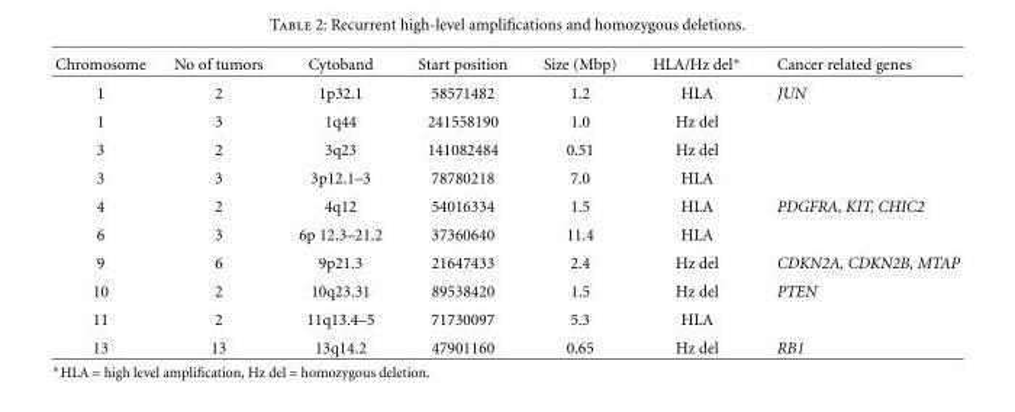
<table><thead><tr><td>Chromosome</td><td>No of tumors</td><td>Cytoband</td><td>Start position</td><td>Size (Mbp)</td><td>HLA/Hz del∗</td><td>Cancer related genes</td></tr></thead><tbody><tr><td>1</td><td>2</td><td>1p32.1</td><td>58571482</td><td>1.2</td><td>HLA</td><td>JUN</td></tr><tr><td>1</td><td>3</td><td>1q44</td><td>241558190</td><td>1.0</td><td>Hz del</td><td></td></tr><tr><td>3</td><td>2</td><td>3q23</td><td>141082484</td><td>0.51</td><td>Hz del</td><td></td></tr><tr><td>3</td><td>3</td><td>3p12.1–3</td><td>78780218</td><td>7.0</td><td>HLA</td><td></td></tr><tr><td>4</td><td>2</td><td>4q12</td><td>54016334</td><td>1.5</td><td>HLA</td><td>PDGFRA, KIT, CHIC2</td></tr><tr><td>6</td><td>3</td><td>6p 12.3–21.2</td><td>37360640</td><td>11.4</td><td>HLA</td><td></td></tr><tr><td>9</td><td>6</td><td>9p21.3</td><td>21647433</td><td>2.4</td><td>Hz del</td><td>CDKN2A, CDKN2B, MTAP</td></tr><tr><td>10</td><td>2</td><td>10q23.31</td><td>89538420</td><td>1.5</td><td>Hz del</td><td>PTEN</td></tr><tr><td>11</td><td>2</td><td>11q13.4–5</td><td>71730097</td><td>5.3</td><td>HLA</td><td></td></tr><tr><td>13</td><td>13</td><td>13q14.2</td><td>47901160</td><td>0.65</td><td>Hz del</td><td>RB1</td></tr></tbody></table>